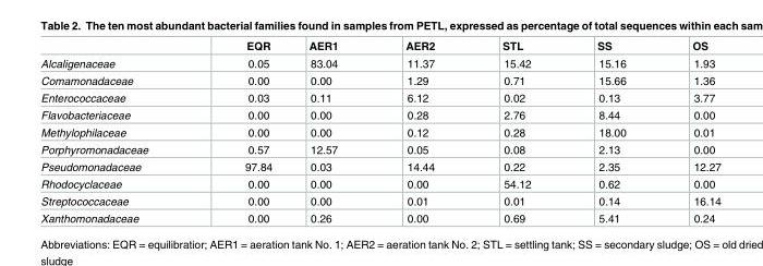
<table><thead><tr><td></td><td>EQR</td><td>AER1</td><td>AER2</td><td>STL</td><td>SS</td><td>OS</td></tr></thead><tbody><tr><td>Alcaligenaceae</td><td>0.05</td><td>83.04</td><td>11.37</td><td>15.42</td><td>15.16</td><td>1.93</td></tr><tr><td>Comamonadaceae</td><td>0.00</td><td>0.00</td><td>1.29</td><td>0.71</td><td>15.66</td><td>1.36</td></tr><tr><td>Enterococcaceae</td><td>0.03</td><td>0.11</td><td>6.12</td><td>0.02</td><td>0.13</td><td>3.77</td></tr><tr><td>Flavobacteriaceae</td><td>0.00</td><td>0.00</td><td>0.28</td><td>2.76</td><td>8.44</td><td>0.00</td></tr><tr><td>Methylophilaceae</td><td>0.00</td><td>0.00</td><td>0.12</td><td>0.28</td><td>18.00</td><td>0.01</td></tr><tr><td>Porphyromonadaceae</td><td>0.57</td><td>12.57</td><td>0.05</td><td>0.08</td><td>2.13</td><td>0.00</td></tr><tr><td>Pseudomonadaceae</td><td>97.84</td><td>0.03</td><td>14.44</td><td>0.22</td><td>2.35</td><td>12.27</td></tr><tr><td>Rhodocyclaceae</td><td>0.00</td><td>0.00</td><td>0.00</td><td>54.12</td><td>0.62</td><td>0.00</td></tr><tr><td>Streptococcaceae</td><td>0.00</td><td>0.00</td><td>0.01</td><td>0.01</td><td>0.14</td><td>16.14</td></tr><tr><td>Xanthomonadaceae</td><td>0.00</td><td>0.26</td><td>0.00</td><td>0.69</td><td>5.41</td><td>0.24</td></tr></tbody></table>